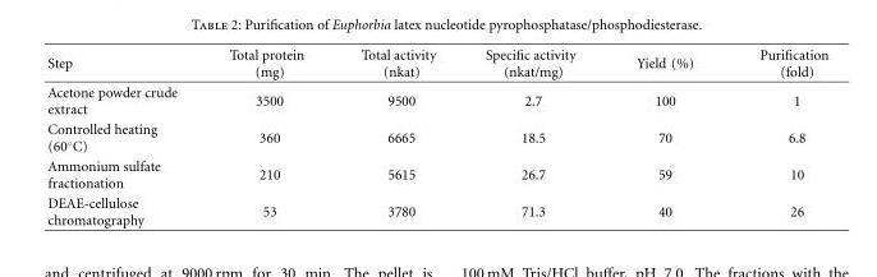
<table><thead><tr><td>Step</td><td>Total protein (mg)</td><td>Total activity (nkat)</td><td>Specific activity (nkat/mg)</td><td>Yield (%)</td><td>Purification (fold)</td></tr></thead><tbody><tr><td>Acetone powder crude extract</td><td>3500</td><td>9500</td><td>2.7</td><td>100</td><td>1</td></tr><tr><td>Controlled heating (60◦C)</td><td>360</td><td>6665</td><td>18.5</td><td>70</td><td>6.8</td></tr><tr><td>Ammonium sulfate fractionation</td><td>210</td><td>5615</td><td>26.7</td><td>59</td><td>10</td></tr><tr><td>DEAE-cellulose chromatography</td><td>53</td><td>3780</td><td>71.3</td><td>40</td><td>26</td></tr></tbody></table>